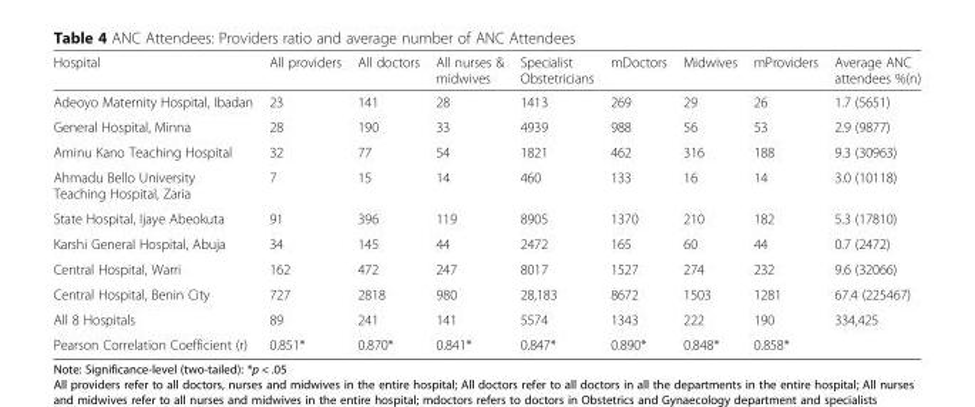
<table><thead><tr><td>Hospital</td><td>All providers</td><td>All doctors</td><td>All nurses &amp; midwives</td><td>Specialist Obstetricians</td><td>mDoctors</td><td>Midwives</td><td>mProviders</td><td>Average ANC attendees %(n)</td></tr></thead><tbody><tr><td>Adeoyo Maternity Hospital, Ibadan</td><td>23</td><td>141</td><td>28</td><td>1413</td><td>269</td><td>29</td><td>26</td><td>1.7 (5651)</td></tr><tr><td>General Hospital, Minna</td><td>28</td><td>190</td><td>33</td><td>4939</td><td>988</td><td>56</td><td>53</td><td>2.9 (9877)</td></tr><tr><td>Aminu Kano Teaching Hospital</td><td>32</td><td>77</td><td>54</td><td>1821</td><td>462</td><td>316</td><td>188</td><td>9.3 (30963)</td></tr><tr><td>Ahmadu Bello University Teaching Hospital, Zaria</td><td>7</td><td>15</td><td>14</td><td>460</td><td>133</td><td>16</td><td>14</td><td>3.0 (10118)</td></tr><tr><td>State Hospital, Ijaye Abeokuta</td><td>91</td><td>396</td><td>119</td><td>8905</td><td>1370</td><td>210</td><td>182</td><td>5.3 (17810)</td></tr><tr><td>Karshi General Hospital, Abuja</td><td>34</td><td>145</td><td>44</td><td>2472</td><td>165</td><td>60</td><td>44</td><td>0.7 (2472)</td></tr><tr><td>Central Hospital, Warri</td><td>162</td><td>472</td><td>247</td><td>8017</td><td>1527</td><td>274</td><td>232</td><td>9.6 (32066)</td></tr><tr><td>Central Hospital, Benin City</td><td>727</td><td>2818</td><td>980</td><td>28,183</td><td>8672</td><td>1503</td><td>1281</td><td>67.4 (225467)</td></tr><tr><td>All 8 Hospitals</td><td>89</td><td>241</td><td>141</td><td>5574</td><td>1343</td><td>222</td><td>190</td><td>334,425</td></tr><tr><td>Pearson Correlation Coefficient (r)</td><td>0.851*</td><td>0.870*</td><td>0.841*</td><td>0.847*</td><td>0.890*</td><td>0.848*</td><td>0.858*</td><td></td></tr></tbody></table>